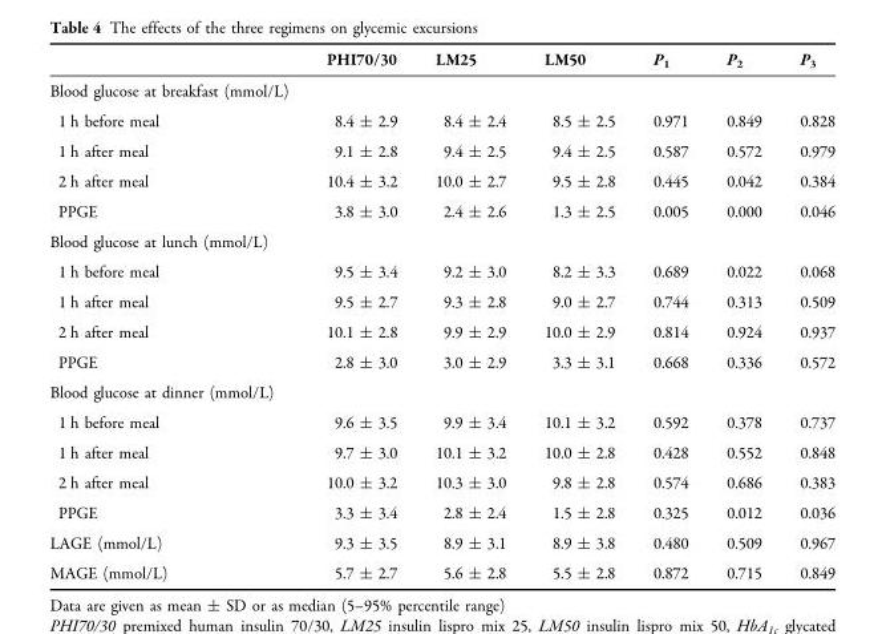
<table><thead><tr><td></td><td>PHI70/30</td><td>LM25</td><td>LM50</td><td>P<sub>1</sub></td><td>P<sub>2</sub></td><td>P<sub>3</sub></td></tr></thead><tbody><tr><td colspan="7">Blood glucose at breakfast (mmol/L)</td></tr><tr><td>1 h before meal</td><td>8.4 ± 2.9</td><td>8.4 ± 2.4</td><td>8.5 ± 2.5</td><td>0.971</td><td>0.849</td><td>0.828</td></tr><tr><td>1 h after meal</td><td>9.1 ± 2.8</td><td>9.4 ± 2.5</td><td>9.4 ± 2.5</td><td>0.587</td><td>0.572</td><td>0.979</td></tr><tr><td>2 h after meal</td><td>10.4 ± 3.2</td><td>10.0 ± 2.7</td><td>9.5 ± 2.8</td><td>0.445</td><td>0.042</td><td>0.384</td></tr><tr><td>PPGE</td><td>3.8 ± 3.0</td><td>2.4 ± 2.6</td><td>1.3 ± 2.5</td><td>0.005</td><td>0.000</td><td>0.046</td></tr><tr><td colspan="7">Blood glucose at lunch (mmol/L)</td></tr><tr><td>1 h before meal</td><td>9.5 ± 3.4</td><td>9.2 ± 3.0</td><td>8.2 ± 3.3</td><td>0.689</td><td>0.022</td><td>0.068</td></tr><tr><td>1 h after meal</td><td>9.5 ± 2.7</td><td>9.3 ± 2.8</td><td>9.0 ± 2.7</td><td>0.744</td><td>0.313</td><td>0.509</td></tr><tr><td>2 h after meal</td><td>10.1 ± 2.8</td><td>9.9 ± 2.9</td><td>10.0 ± 2.9</td><td>0.814</td><td>0.924</td><td>0.937</td></tr><tr><td>PPGE</td><td>2.8 ± 3.0</td><td>3.0 ± 2.9</td><td>3.3 ± 3.1</td><td>0.668</td><td>0.336</td><td>0.572</td></tr><tr><td colspan="7">Blood glucose at dinner (mmol/L)</td></tr><tr><td>1 h before meal</td><td>9.6 ± 3.5</td><td>9.9 ± 3.4</td><td>10.1 ± 3.2</td><td>0.592</td><td>0.378</td><td>0.737</td></tr><tr><td>1 h after meal</td><td>9.7 ± 3.0</td><td>10.1 ± 3.2</td><td>10.0 ± 2.8</td><td>0.428</td><td>0.552</td><td>0.848</td></tr><tr><td>2 h after meal</td><td>10.0 ± 3.2</td><td>10.3 ± 3.0</td><td>9.8 ± 2.8</td><td>0.574</td><td>0.686</td><td>0.383</td></tr><tr><td>PPGE</td><td>3.3 ± 3.4</td><td>2.8 ± 2.4</td><td>1.5 ± 2.8</td><td>0.325</td><td>0.012</td><td>0.036</td></tr><tr><td>LAGE (mmol/L)</td><td>9.3 ± 3.5</td><td>8.9 ± 3.1</td><td>8.9 ± 3.8</td><td>0.480</td><td>0.509</td><td>0.967</td></tr><tr><td>MAGE (mmol/L)</td><td>5.7 ± 2.7</td><td>5.6 ± 2.8</td><td>5.5 ± 2.8</td><td>0.872</td><td>0.715</td><td>0.849</td></tr></tbody></table>